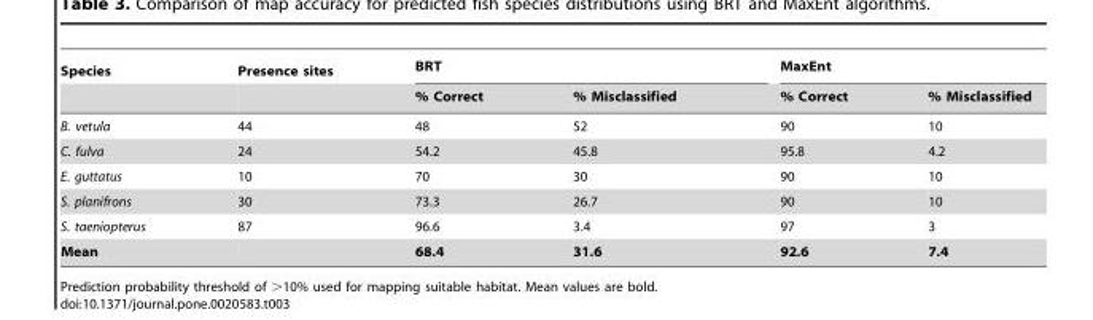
<table><thead><tr><td rowspan="2">Species</td><td rowspan="2">Presence sites</td><td colspan="2">BRT</td><td colspan="2">MaxEnt</td></tr><tr><td>% Correct</td><td>% Misclassified</td><td>% Correct</td><td>% Misclassified</td></tr></thead><tbody><tr><td>B. vetula</td><td>44</td><td>48</td><td>52</td><td>90</td><td>10</td></tr><tr><td>C. fulva</td><td>24</td><td>54.2</td><td>45.8</td><td>95.8</td><td>4.2</td></tr><tr><td>E. guttatus</td><td>10</td><td>70</td><td>30</td><td>90</td><td>10</td></tr><tr><td>S. planifrons</td><td>30</td><td>73.3</td><td>26.7</td><td>90</td><td>10</td></tr><tr><td>S. taeniopterus</td><td>87</td><td>96.6</td><td>3.4</td><td>97</td><td>3</td></tr><tr><td>Mean</td><td></td><td>68.4</td><td>31.6</td><td>92.6</td><td>7.4</td></tr></tbody></table>